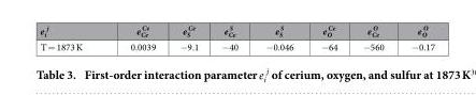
<table><tbody><tr><td>T = 1873 K</td><td>0.0039</td><td>− 9.1</td><td>− 40</td><td>− 0.046</td><td>− 64</td><td>− 560</td><td>− 0.17</td></tr></tbody></table>